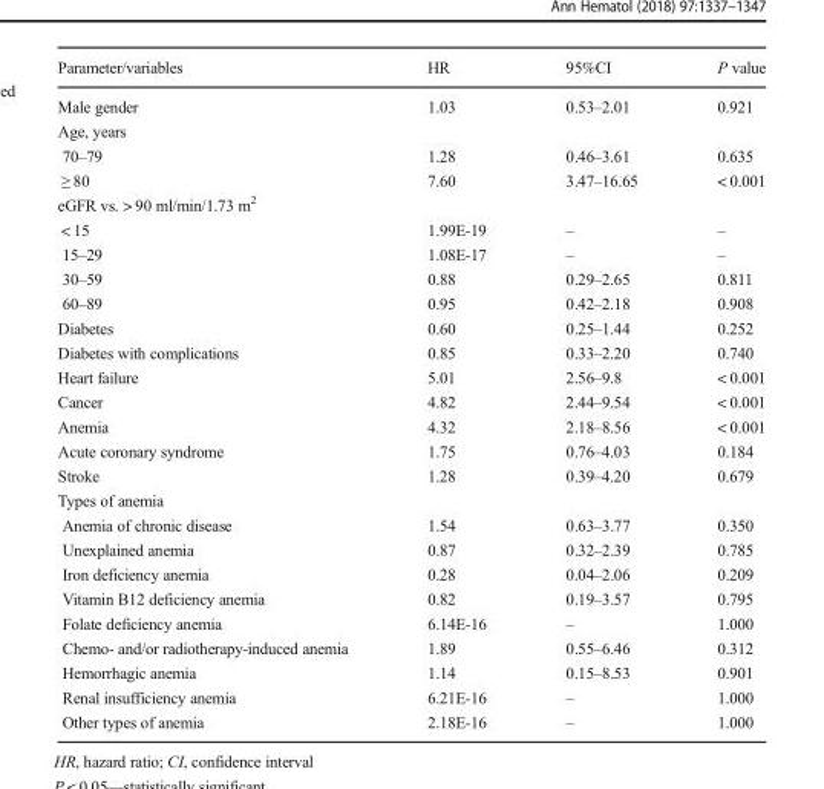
<table><thead><tr><td>Parameter/variables</td><td>HR</td><td>95%CI</td><td>P value</td></tr></thead><tbody><tr><td>Male gender</td><td>1.03</td><td>0.53–2.01</td><td>0.921</td></tr><tr><td colspan="4">Age, years</td></tr><tr><td>70–79</td><td>1.28</td><td>0.46–3.61</td><td>0.635</td></tr><tr><td>≥ 80</td><td>7.60</td><td>3.47–16.65</td><td>&lt; 0.001</td></tr><tr><td colspan="4">eGFR vs. &gt; 90 ml/min/1.73 m<sup>2</sup></td></tr><tr><td>&lt; 15</td><td>1.99E-19</td><td>–</td><td>–</td></tr><tr><td>15–29</td><td>1.08E-17</td><td>–</td><td>–</td></tr><tr><td>30–59</td><td>0.88</td><td>0.29–2.65</td><td>0.811</td></tr><tr><td>60–89</td><td>0.95</td><td>0.42–2.18</td><td>0.908</td></tr><tr><td>Diabetes</td><td>0.60</td><td>0.25–1.44</td><td>0.252</td></tr><tr><td>Diabetes with complications</td><td>0.85</td><td>0.33–2.20</td><td>0.740</td></tr><tr><td>Heart failure</td><td>5.01</td><td>2.56–9.8</td><td>&lt; 0.001</td></tr><tr><td>Cancer</td><td>4.82</td><td>2.44–9.54</td><td>&lt; 0.001</td></tr><tr><td>Anemia</td><td>4.32</td><td>2.18–8.56</td><td>&lt; 0.001</td></tr><tr><td>Acute coronary syndrome</td><td>1.75</td><td>0.76–4.03</td><td>0.184</td></tr><tr><td>Stroke</td><td>1.28</td><td>0.39–4.20</td><td>0.679</td></tr><tr><td colspan="4">Types of anemia</td></tr><tr><td>Anemia of chronic disease</td><td>1.54</td><td>0.63–3.77</td><td>0.350</td></tr><tr><td>Unexplained anemia</td><td>0.87</td><td>0.32–2.39</td><td>0.785</td></tr><tr><td>Iron deficiency anemia</td><td>0.28</td><td>0.04–2.06</td><td>0.209</td></tr><tr><td>Vitamin B12 deficiency anemia</td><td>0.82</td><td>0.19–3.57</td><td>0.795</td></tr><tr><td>Folate deficiency anemia</td><td>6.14E-16</td><td>–</td><td>1.000</td></tr><tr><td>Chemo- and/or radiotherapy-induced anemia</td><td>1.89</td><td>0.55–6.46</td><td>0.312</td></tr><tr><td>Hemorrhagic anemia</td><td>1.14</td><td>0.15–8.53</td><td>0.901</td></tr><tr><td>Renal insufficiency anemia</td><td>6.21E-16</td><td>–</td><td>1.000</td></tr><tr><td>Other types of anemia</td><td>2.18E-16</td><td>–</td><td>1.000</td></tr></tbody></table>